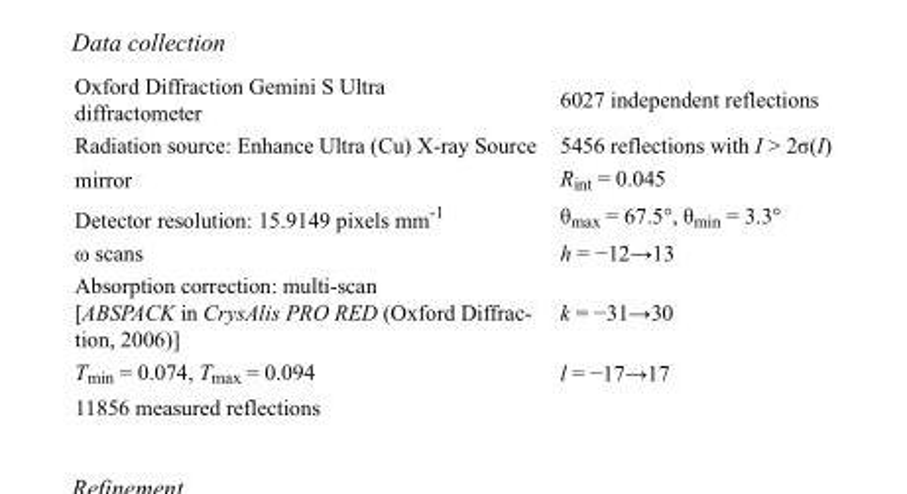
<table><tbody><tr><td>Oxford Diffraction Gemini S Ultra diffractometer</td><td>6027 independent reflections</td></tr><tr><td>Radiation source: Enhance Ultra (Cu) X-ray Source</td><td>5456 reflections with I &gt; 2σ(I)</td></tr><tr><td>mirror</td><td>R<sub>int</sub> = 0.045</td></tr><tr><td>Detector resolution: 15.9149 pixels mm<sup>-1</sup></td><td>θ<sub>max</sub> = 67.5°, θ<sub>min</sub> = 3.3°</td></tr><tr><td>ω scans</td><td>h = −12→13</td></tr><tr><td>Absorption correction: multi-scan [ABSPACK in CrysAlis PRO RED (Oxford Diffrac- tion, 2006)]</td><td>k = −31→30</td></tr><tr><td>T<sub>min</sub> = 0.074, T<sub>max</sub> = 0.094</td><td>l = −17→17</td></tr><tr><td>11856 measured reflections</td><td></td></tr></tbody></table>